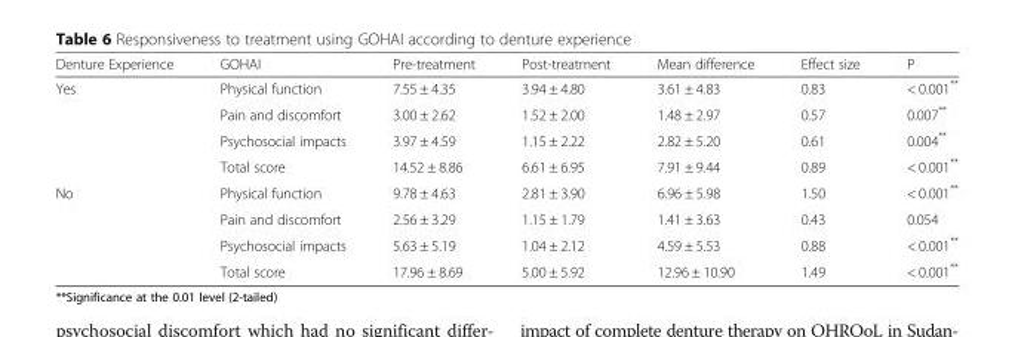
<table><thead><tr><td>Denture Experience</td><td>GOHAI</td><td>Pre-treatment</td><td>Post-treatment</td><td>Mean difference</td><td>Effect size</td><td>P</td></tr></thead><tbody><tr><td rowspan="4">Yes</td><td>Physical function</td><td>7.55 ± 4.35</td><td>3.94 ± 4.80</td><td>3.61 ± 4.83</td><td>0.83</td><td>&lt; 0.001**</td></tr><tr><td>Pain and discomfort</td><td>3.00 ± 2.62</td><td>1.52 ± 2.00</td><td>1.48 ± 2.97</td><td>0.57</td><td>0.007**</td></tr><tr><td>Psychosocial impacts</td><td>3.97 ± 4.59</td><td>1.15 ± 2.22</td><td>2.82 ± 5.20</td><td>0.61</td><td>0.004**</td></tr><tr><td>Total score</td><td>14.52 ± 8.86</td><td>6.61 ± 6.95</td><td>7.91 ± 9.44</td><td>0.89</td><td>&lt; 0.001**</td></tr><tr><td rowspan="4">No</td><td>Physical function</td><td>9.78 ± 4.63</td><td>2.81 ± 3.90</td><td>6.96 ± 5.98</td><td>1.50</td><td>&lt; 0.001**</td></tr><tr><td>Pain and discomfort</td><td>2.56 ± 3.29</td><td>1.15 ± 1.79</td><td>1.41 ± 3.63</td><td>0.43</td><td>0.054</td></tr><tr><td>Psychosocial impacts</td><td>5.63 ± 5.19</td><td>1.04 ± 2.12</td><td>4.59 ± 5.53</td><td>0.88</td><td>&lt; 0.001**</td></tr><tr><td>Total score</td><td>17.96 ± 8.69</td><td>5.00 ± 5.92</td><td>12.96 ± 10.90</td><td>1.49</td><td>&lt; 0.001**</td></tr></tbody></table>